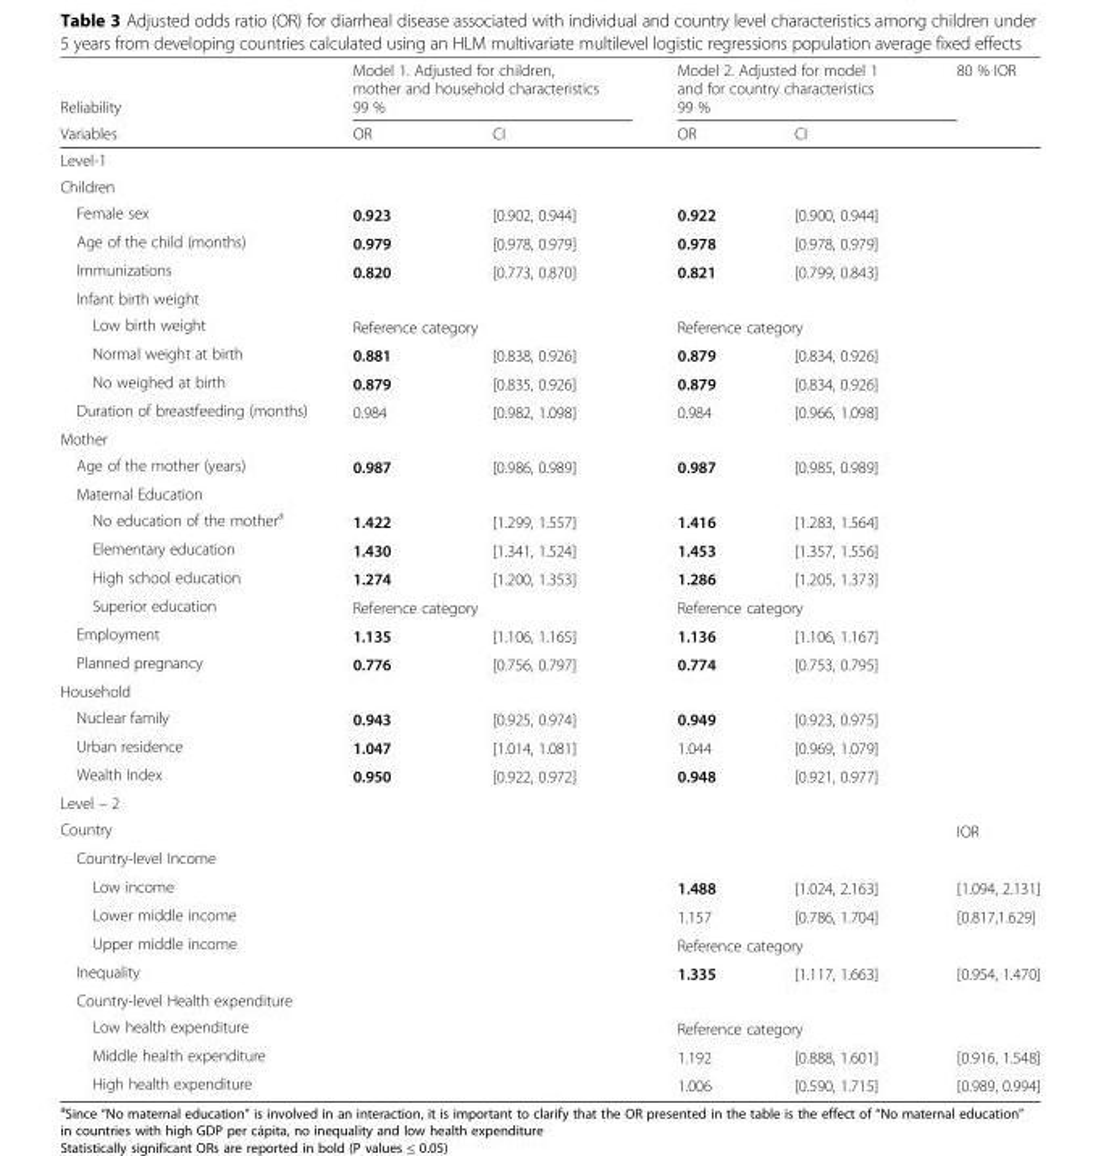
<table><thead><tr><td rowspan="3">Reliability Variables</td><td rowspan="2" colspan="2">Model 1. Adjusted for children, mother and household characteristics 99 %</td><td rowspan="2" colspan="2">Model 2. Adjusted for model 1 and for country characteristics 99 %</td><td rowspan="3">80 % IOR</td></tr><tr></tr><tr><td>OR</td><td>CI</td><td>OR</td><td>CI</td></tr></thead><tbody><tr><td colspan="6">Level-1</td></tr><tr><td colspan="6">Children</td></tr><tr><td>Female sex</td><td>0.923</td><td>[0.902, 0.944]</td><td>0.922</td><td>[0.900, 0.944]</td><td></td></tr><tr><td>Age of the child (months)</td><td>0.979</td><td>[0.978, 0.979]</td><td>0.978</td><td>[0.978, 0.979]</td><td></td></tr><tr><td>Immunizations</td><td>0.820</td><td>[0.773, 0.870]</td><td>0.821</td><td>[0.799, 0.843]</td><td></td></tr><tr><td colspan="6">Infant birth weight</td></tr><tr><td>Low birth weight</td><td colspan="2">Reference category</td><td colspan="2">Reference category</td><td></td></tr><tr><td>Normal weight at birth</td><td>0.881</td><td>[0.838, 0.926]</td><td>0.879</td><td>[0.834, 0.926]</td><td></td></tr><tr><td>No weighed at birth</td><td>0.879</td><td>[0.835, 0.926]</td><td>0.879</td><td>[0.834, 0.926]</td><td></td></tr><tr><td>Duration of breastfeeding (months)</td><td>0.984</td><td>[0.982, 1.098]</td><td>0.984</td><td>[0.966, 1.098]</td><td></td></tr><tr><td colspan="6">Mother</td></tr><tr><td>Age of the mother (years)</td><td>0.987</td><td>[0.986, 0.989]</td><td>0.987</td><td>[0.985, 0.989]</td><td></td></tr><tr><td colspan="6">Maternal Education</td></tr><tr><td>No education of the mother<sup>a</sup></td><td>1.422</td><td>[1.299, 1.557]</td><td>1.416</td><td>[1.283, 1.564]</td><td></td></tr><tr><td>Elementary education</td><td>1.430</td><td>[1.341, 1.524]</td><td>1.453</td><td>[1.357, 1.556]</td><td></td></tr><tr><td>High school education</td><td>1.274</td><td>[1.200, 1.353]</td><td>1.286</td><td>[1.205, 1.373]</td><td></td></tr><tr><td>Superior education</td><td colspan="2">Reference category</td><td colspan="2">Reference category</td><td></td></tr><tr><td>Employment</td><td>1.135</td><td>[1.106, 1.165]</td><td>1.136</td><td>[1.106, 1.167]</td><td></td></tr><tr><td>Planned pregnancy</td><td>0.776</td><td>[0.756, 0.797]</td><td>0.774</td><td>[0.753, 0.795]</td><td></td></tr><tr><td colspan="6">Household</td></tr><tr><td>Nuclear family</td><td>0.943</td><td>[0.925, 0.974]</td><td>0.949</td><td>[0.923, 0.975]</td><td></td></tr><tr><td>Urban residence</td><td>1.047</td><td>[1.014, 1.081]</td><td>1.044</td><td>[0.969, 1.079]</td><td></td></tr><tr><td>Wealth Index</td><td>0.950</td><td>[0.922, 0.972]</td><td>0.948</td><td>[0.921, 0.977]</td><td></td></tr><tr><td colspan="6">Level – 2</td></tr><tr><td>Country</td><td></td><td></td><td></td><td></td><td>IOR</td></tr><tr><td colspan="6">Country-level Income</td></tr><tr><td>Low income</td><td></td><td></td><td>1.488</td><td>[1.024, 2.163]</td><td>[1.094, 2.131]</td></tr><tr><td>Lower middle income</td><td></td><td></td><td>1.157</td><td>[0.786, 1.704]</td><td>[0.817,1.629]</td></tr><tr><td>Upper middle income</td><td></td><td></td><td colspan="3">Reference category</td></tr><tr><td>Inequality</td><td></td><td></td><td>1.335</td><td>[1.117, 1.663]</td><td>[0.954, 1.470]</td></tr><tr><td colspan="6">Country-level Health expenditure</td></tr><tr><td>Low health expenditure</td><td></td><td></td><td colspan="3">Reference category</td></tr><tr><td>Middle health expenditure</td><td></td><td></td><td>1.192</td><td>[0.888, 1.601]</td><td>[0.916, 1.548]</td></tr><tr><td>High health expenditure</td><td></td><td></td><td>1.006</td><td>[0.590, 1.715]</td><td>[0.989, 0.994]</td></tr></tbody></table>